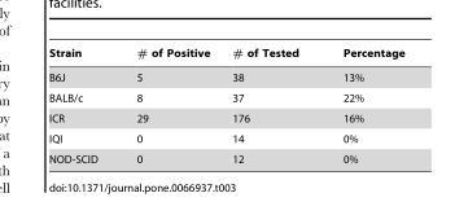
<table><thead><tr><td>Strain</td><td># of Positive</td><td># of Tested</td><td>Percentage</td></tr></thead><tbody><tr><td>B6J</td><td>5</td><td>38</td><td>13%</td></tr><tr><td>BALB/c</td><td>8</td><td>37</td><td>22%</td></tr><tr><td>ICR</td><td>29</td><td>176</td><td>16%</td></tr><tr><td>IQI</td><td>0</td><td>14</td><td>0%</td></tr><tr><td>NOD-SCID</td><td>0</td><td>12</td><td>0%</td></tr></tbody></table>